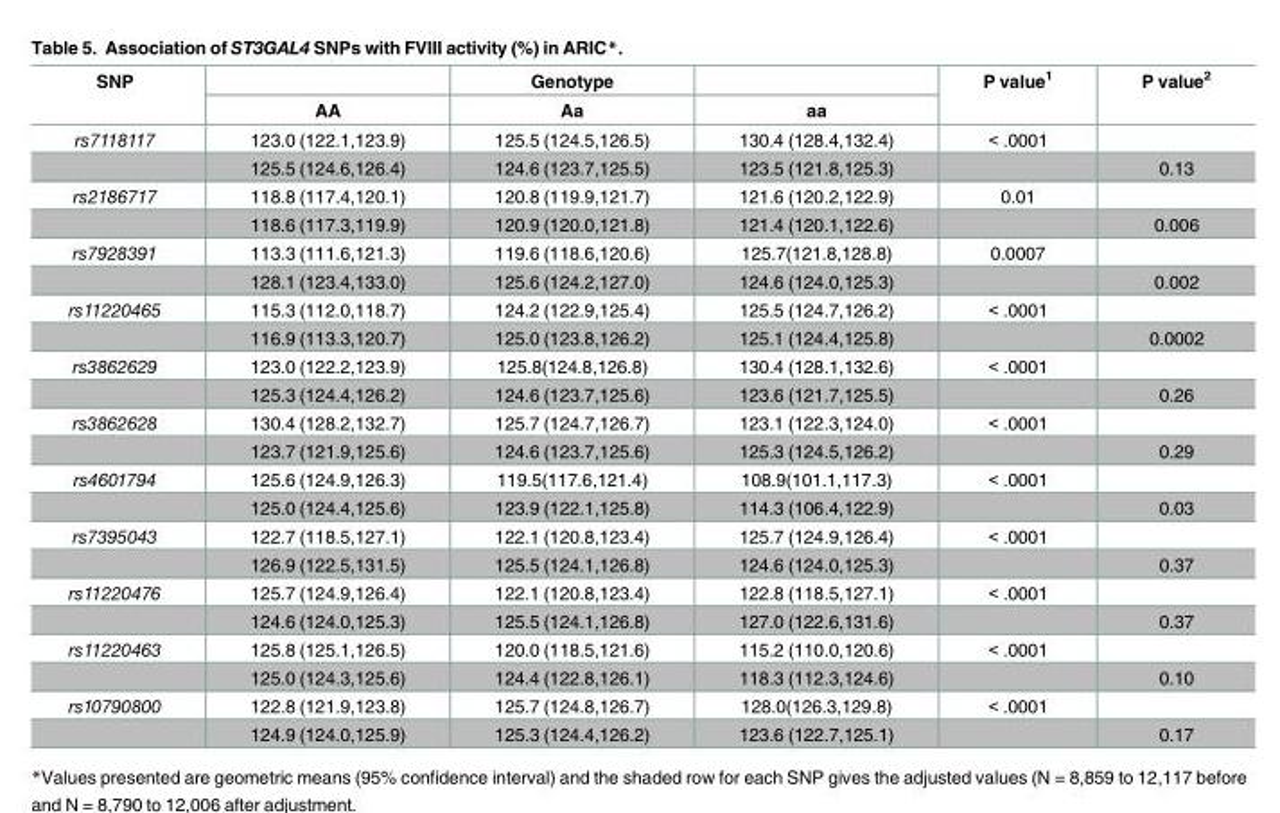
<table><thead><tr><td rowspan="2">SNP</td><td rowspan="2">AA</td><td rowspan="2">Genotype Aa</td><td rowspan="2">aa</td><td rowspan="2">P value<sup>1</sup></td><td rowspan="2">P value<sup>2</sup></td></tr><tr></tr></thead><tbody><tr><td rowspan="2">rs7118117</td><td>123.0 (122.1,123.9)</td><td>125.5 (124.5,126.5)</td><td>130.4 (128.4,132.4)</td><td>&lt; .0001</td><td></td></tr><tr><td>125.5 (124.6,126.4)</td><td>124.6 (123.7,125.5)</td><td>123.5 (121.8,125.3)</td><td></td><td>0.13</td></tr><tr><td rowspan="2">rs2186717</td><td>118.8 (117.4,120.1)</td><td>120.8 (119.9,121.7)</td><td>121.6 (120.2,122.9)</td><td>0.01</td><td></td></tr><tr><td>118.6 (117.3,119.9)</td><td>120.9 (120.0,121.8)</td><td>121.4 (120.1,122.6)</td><td></td><td>0.006</td></tr><tr><td rowspan="2">rs7928391</td><td>113.3 (111.6,121.3)</td><td>119.6 (118.6,120.6)</td><td>125.7(121.8,128.8)</td><td>0.0007</td><td></td></tr><tr><td>128.1 (123.4,133.0)</td><td>125.6 (124.2,127.0)</td><td>124.6 (124.0,125.3)</td><td></td><td>0.002</td></tr><tr><td rowspan="2">rs11220465</td><td>115.3 (112.0,118.7)</td><td>124.2 (122.9,125.4)</td><td>125.5 (124.7,126.2)</td><td>&lt; .0001</td><td></td></tr><tr><td>116.9 (113.3,120.7)</td><td>125.0 (123.8,126.2)</td><td>125.1 (124.4,125.8)</td><td></td><td>0.0002</td></tr><tr><td rowspan="2">rs3862629</td><td>123.0 (122.2,123.9)</td><td>125.8(124.8,126.8)</td><td>130.4 (128.1,132.6)</td><td>&lt; .0001</td><td></td></tr><tr><td>125.3 (124.4,126.2)</td><td>124.6 (123.7,125.6)</td><td>123.6 (121.7,125.5)</td><td></td><td>0.26</td></tr><tr><td rowspan="2">rs3862628</td><td>130.4 (128.2,132.7)</td><td>125.7 (124.7,126.7)</td><td>123.1 (122.3,124.0)</td><td>&lt; .0001</td><td></td></tr><tr><td>123.7 (121.9,125.6)</td><td>124.6 (123.7,125.6)</td><td>125.3 (124.5,126.2)</td><td></td><td>0.29</td></tr><tr><td rowspan="2">rs4601794</td><td>125.6 (124.9,126.3)</td><td>119.5(117.6,121.4)</td><td>108.9(101.1,117.3)</td><td>&lt; .0001</td><td></td></tr><tr><td>125.0 (124.4,125.6)</td><td>123.9 (122.1,125.8)</td><td>114.3 (106.4,122.9)</td><td></td><td>0.03</td></tr><tr><td rowspan="2">rs7395043</td><td>122.7 (118.5,127.1)</td><td>122.1 (120.8,123.4)</td><td>125.7 (124.9,126.4)</td><td>&lt; .0001</td><td></td></tr><tr><td>126.9 (122.5,131.5)</td><td>125.5 (124.1,126.8)</td><td>124.6 (124.0,125.3)</td><td></td><td>0.37</td></tr><tr><td rowspan="2">rs11220476</td><td>125.7 (124.9,126.4)</td><td>122.1 (120.8,123.4)</td><td>122.8 (118.5,127.1)</td><td>&lt; .0001</td><td></td></tr><tr><td>124.6 (124.0,125.3)</td><td>125.5 (124.1,126.8)</td><td>127.0 (122.6,131.6)</td><td></td><td>0.37</td></tr><tr><td rowspan="2">rs11220463</td><td>125.8 (125.1,126.5)</td><td>120.0 (118.5,121.6)</td><td>115.2 (110.0,120.6)</td><td>&lt; .0001</td><td></td></tr><tr><td>125.0 (124.3,125.6)</td><td>124.4 (122.8,126.1)</td><td>118.3 (112.3,124.6)</td><td></td><td>0.10</td></tr><tr><td rowspan="2">rs10790800</td><td>122.8 (121.9,123.8)</td><td>125.7 (124.8,126.7)</td><td>128.0(126.3,129.8)</td><td>&lt; .0001</td><td></td></tr><tr><td>124.9 (124.0,125.9)</td><td>125.3 (124.4,126.2)</td><td>123.6 (122.7,125.1)</td><td></td><td>0.17</td></tr></tbody></table>